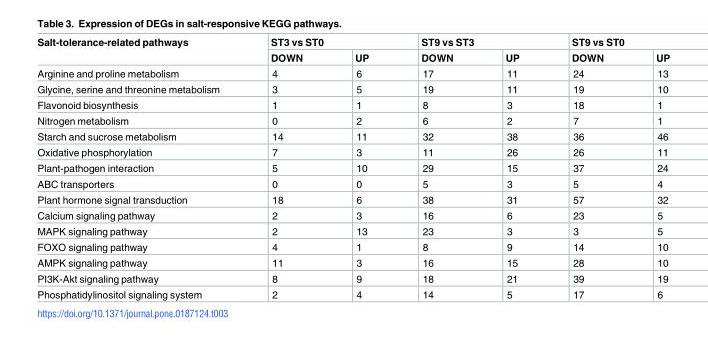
<table><thead><tr><td rowspan="2">Salt-tolerance-related pathways</td><td colspan="2">ST3 vs ST0</td><td colspan="2">ST9 vs ST3</td><td colspan="2">ST9 vs ST0</td></tr><tr><td>DOWN</td><td>UP</td><td>DOWN</td><td>UP</td><td>DOWN</td><td>UP</td></tr></thead><tbody><tr><td>Arginine and proline metabolism</td><td>4</td><td>6</td><td>17</td><td>11</td><td>24</td><td>13</td></tr><tr><td>Glycine, serine and threonine metabolism</td><td>3</td><td>5</td><td>19</td><td>11</td><td>19</td><td>10</td></tr><tr><td>Flavonoid biosynthesis</td><td>1</td><td>1</td><td>8</td><td>3</td><td>18</td><td>1</td></tr><tr><td>Nitrogen metabolism</td><td>0</td><td>2</td><td>6</td><td>2</td><td>7</td><td>1</td></tr><tr><td>Starch and sucrose metabolism</td><td>14</td><td>11</td><td>32</td><td>38</td><td>36</td><td>46</td></tr><tr><td>Oxidative phosphorylation</td><td>7</td><td>3</td><td>11</td><td>26</td><td>26</td><td>11</td></tr><tr><td>Plant-pathogen interaction</td><td>5</td><td>10</td><td>29</td><td>15</td><td>37</td><td>24</td></tr><tr><td>ABC transporters</td><td>0</td><td>0</td><td>5</td><td>3</td><td>5</td><td>4</td></tr><tr><td>Plant hormone signal transduction</td><td>18</td><td>6</td><td>38</td><td>31</td><td>57</td><td>32</td></tr><tr><td>Calcium signaling pathway</td><td>2</td><td>3</td><td>16</td><td>6</td><td>23</td><td>5</td></tr><tr><td>MAPK signaling pathway</td><td>2</td><td>13</td><td>23</td><td>3</td><td>3</td><td>5</td></tr><tr><td>FOXO signaling pathway</td><td>4</td><td>1</td><td>8</td><td>9</td><td>14</td><td>10</td></tr><tr><td>AMPK signaling pathway</td><td>11</td><td>3</td><td>16</td><td>15</td><td>28</td><td>10</td></tr><tr><td>PI3K-Akt signaling pathway</td><td>8</td><td>9</td><td>18</td><td>21</td><td>39</td><td>19</td></tr><tr><td>Phosphatidylinositol signaling system</td><td>2</td><td>4</td><td>14</td><td>5</td><td>17</td><td>6</td></tr></tbody></table>